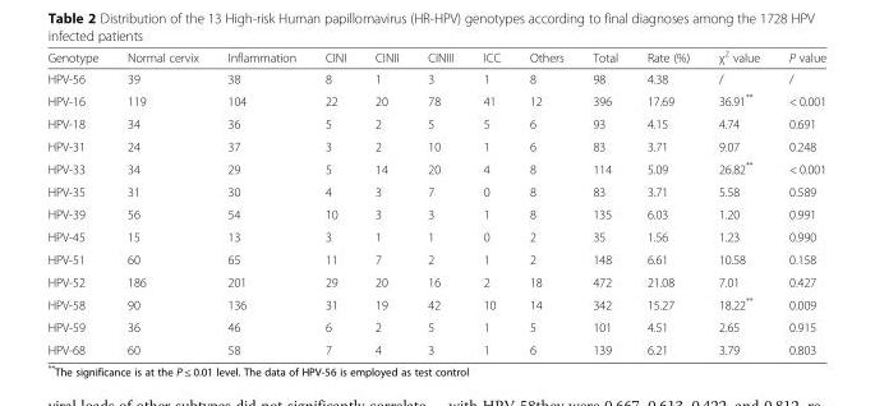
<table><thead><tr><td>Genotype</td><td>Normal cervix</td><td>Inflammation</td><td>CINI</td><td>CINII</td><td>CINIII</td><td>ICC</td><td>Others</td><td>Total</td><td>Rate (%)</td><td>χ<sup>2</sup> value</td><td>P value</td></tr></thead><tbody><tr><td>HPV-56</td><td>39</td><td>38</td><td>8</td><td>1</td><td>3</td><td>1</td><td>8</td><td>98</td><td>4.38</td><td>/</td><td>/</td></tr><tr><td>HPV-16</td><td>119</td><td>104</td><td>22</td><td>20</td><td>78</td><td>41</td><td>12</td><td>396</td><td>17.69</td><td>36.91**</td><td>&lt; 0.001</td></tr><tr><td>HPV-18</td><td>34</td><td>36</td><td>5</td><td>2</td><td>5</td><td>5</td><td>6</td><td>93</td><td>4.15</td><td>4.74</td><td>0.691</td></tr><tr><td>HPV-31</td><td>24</td><td>37</td><td>3</td><td>2</td><td>10</td><td>1</td><td>6</td><td>83</td><td>3.71</td><td>9.07</td><td>0.248</td></tr><tr><td>HPV-33</td><td>34</td><td>29</td><td>5</td><td>14</td><td>20</td><td>4</td><td>8</td><td>114</td><td>5.09</td><td>26.82**</td><td>&lt; 0.001</td></tr><tr><td>HPV-35</td><td>31</td><td>30</td><td>4</td><td>3</td><td>7</td><td>0</td><td>8</td><td>83</td><td>3.71</td><td>5.58</td><td>0.589</td></tr><tr><td>HPV-39</td><td>56</td><td>54</td><td>10</td><td>3</td><td>3</td><td>1</td><td>8</td><td>135</td><td>6.03</td><td>1.20</td><td>0.991</td></tr><tr><td>HPV-45</td><td>15</td><td>13</td><td>3</td><td>1</td><td>1</td><td>0</td><td>2</td><td>35</td><td>1.56</td><td>1.23</td><td>0.990</td></tr><tr><td>HPV-51</td><td>60</td><td>65</td><td>11</td><td>7</td><td>2</td><td>1</td><td>2</td><td>148</td><td>6.61</td><td>10.58</td><td>0.158</td></tr><tr><td>HPV-52</td><td>186</td><td>201</td><td>29</td><td>20</td><td>16</td><td>2</td><td>18</td><td>472</td><td>21.08</td><td>7.01</td><td>0.427</td></tr><tr><td>HPV-58</td><td>90</td><td>136</td><td>31</td><td>19</td><td>42</td><td>10</td><td>14</td><td>342</td><td>15.27</td><td>18.22**</td><td>0.009</td></tr><tr><td>HPV-59</td><td>36</td><td>46</td><td>6</td><td>2</td><td>5</td><td>1</td><td>5</td><td>101</td><td>4.51</td><td>2.65</td><td>0.915</td></tr><tr><td>HPV-68</td><td>60</td><td>58</td><td>7</td><td>4</td><td>3</td><td>1</td><td>6</td><td>139</td><td>6.21</td><td>3.79</td><td>0.803</td></tr></tbody></table>